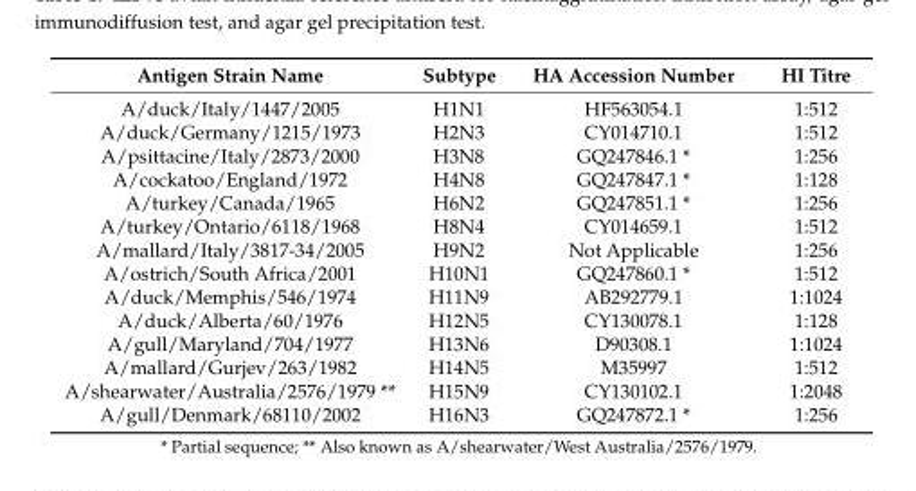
<table><thead><tr><td>Antigen Strain Name</td><td>Subtype</td><td>HA Accession Number</td><td>HI Titre</td></tr></thead><tbody><tr><td>A/duck/Italy/1447/2005</td><td>H1N1</td><td>HF563054.1</td><td>1:512</td></tr><tr><td>A/duck/Germany/1215/1973</td><td>H2N3</td><td>CY014710.1</td><td>1:512</td></tr><tr><td>A/psittacine/Italy/2873/2000</td><td>H3N8</td><td>GQ247846.1 *</td><td>1:256</td></tr><tr><td>A/cockatoo/England/1972</td><td>H4N8</td><td>GQ247847.1 *</td><td>1:128</td></tr><tr><td>A/turkey/Canada/1965</td><td>H6N2</td><td>GQ247851.1 *</td><td>1:256</td></tr><tr><td>A/turkey/Ontario/6118/1968</td><td>H8N4</td><td>CY014659.1</td><td>1:512</td></tr><tr><td>A/mallard/Italy/3817-34/2005</td><td>H9N2</td><td>Not Applicable</td><td>1:256</td></tr><tr><td>A/ostrich/South Africa/2001</td><td>H10N1</td><td>GQ247860.1 *</td><td>1:512</td></tr><tr><td>A/duck/Memphis/546/1974</td><td>H11N9</td><td>AB292779.1</td><td>1:1024</td></tr><tr><td>A/duck/Alberta/60/1976</td><td>H12N5</td><td>CY130078.1</td><td>1:128</td></tr><tr><td>A/gull/Maryland/704/1977</td><td>H13N6</td><td>D90308.1</td><td>1:1024</td></tr><tr><td>A/mallard/Gurjev/263/1982</td><td>H14N5</td><td>M35997</td><td>1:512</td></tr><tr><td>A/shearwater/Australia/2576/1979 **</td><td>H15N9</td><td>CY130102.1</td><td>1:2048</td></tr><tr><td>A/gull/Denmark/68110/2002</td><td>H16N3</td><td>GQ247872.1 *</td><td>1:256</td></tr></tbody></table>